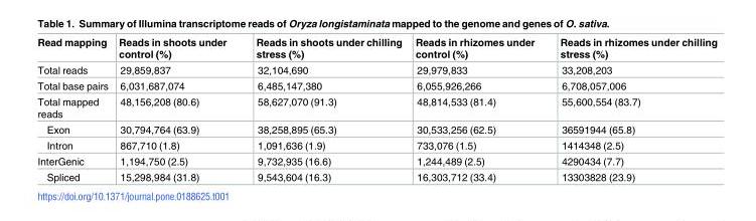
<table><thead><tr><td>Read mapping</td><td>Reads in shoots under control (%)</td><td>Reads in shoots under chilling stress (%)</td><td>Reads in rhizomes under control (%)</td><td>Reads in rhizomes under chilling stress (%)</td></tr></thead><tbody><tr><td>Total reads</td><td>29,859,837</td><td>32,104,690</td><td>29,979,833</td><td>33,208,203</td></tr><tr><td>Total base pairs</td><td>6,031,687,074</td><td>6,485,147,380</td><td>6,055,926,266</td><td>6,708,057,006</td></tr><tr><td>Total mapped reads</td><td>48,156,208 (80.6)</td><td>58,627,070 (91.3)</td><td>48,814,533 (81.4)</td><td>55,600,554 (83.7)</td></tr><tr><td>Exon</td><td>30,794,764 (63.9)</td><td>38,258,895 (65.3)</td><td>30,533,256 (62.5)</td><td>36591944 (65.8)</td></tr><tr><td>Intron</td><td>867,710 (1.8)</td><td>1,091,636 (1.9)</td><td>733,076 (1.5)</td><td>1414348 (2.5)</td></tr><tr><td>InterGenic</td><td>1,194,750 (2.5)</td><td>9,732,935 (16.6)</td><td>1,244,489 (2.5)</td><td>4290434 (7.7)</td></tr><tr><td>Spliced</td><td>15,298,984 (31.8)</td><td>9,543,604 (16.3)</td><td>16,303,712 (33.4)</td><td>13303828 (23.9)</td></tr></tbody></table>